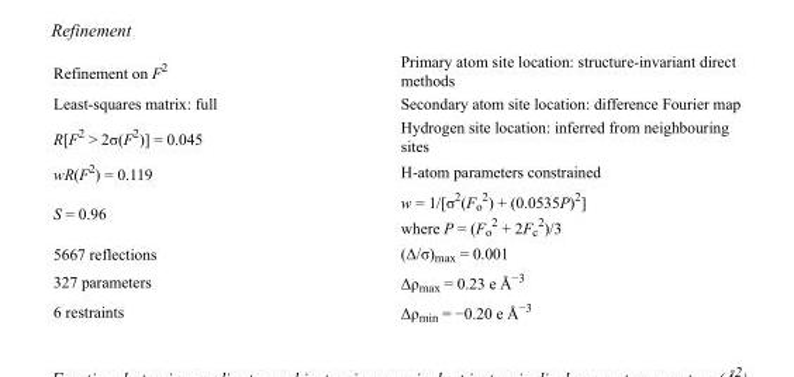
<table><tbody><tr><td>Refinement on F<sup>2</sup></td><td>Primary atom site location: structure-invariant direct methods</td></tr><tr><td>Least-squares matrix: full</td><td>Secondary atom site location: difference Fourier map</td></tr><tr><td>R[F<sup>2</sup> &gt; 2σ(F<sup>2</sup>)] = 0.045</td><td>Hydrogen site location: inferred from neighbouring sites</td></tr><tr><td>wR(F<sup>2</sup>) = 0.119</td><td>H-atom parameters constrained</td></tr><tr><td>S = 0.96</td><td>w = 1/[σ<sup>2</sup>(F<sub>o</sub> <sup>2</sup>) + (0.0535P)<sup>2</sup>] where P = (F<sub>o</sub> <sup>2</sup> + 2F<sub>c</sub> <sup>2</sup>)/3</td></tr><tr><td>5667 reflections</td><td>(Δ/σ)<sub>max</sub> = 0.001</td></tr><tr><td>327 parameters</td><td>Δρ<sub>max</sub> = 0.23 e Å<sup>−3</sup></td></tr><tr><td>6 restraints</td><td>Δρ<sub>min</sub> = −0.20 e Å<sup>−3</sup></td></tr></tbody></table>